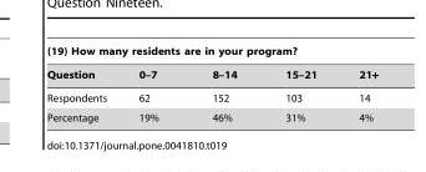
<table><thead><tr><td colspan="5">(19) How many residents are in your program?</td></tr><tr><td>Question</td><td>0–7</td><td>8–14</td><td>15–21</td><td>21+</td></tr></thead><tbody><tr><td>Respondents</td><td>62</td><td>152</td><td>103</td><td>14</td></tr><tr><td>Percentage</td><td>19%</td><td>46%</td><td>31%</td><td>4%</td></tr></tbody></table>